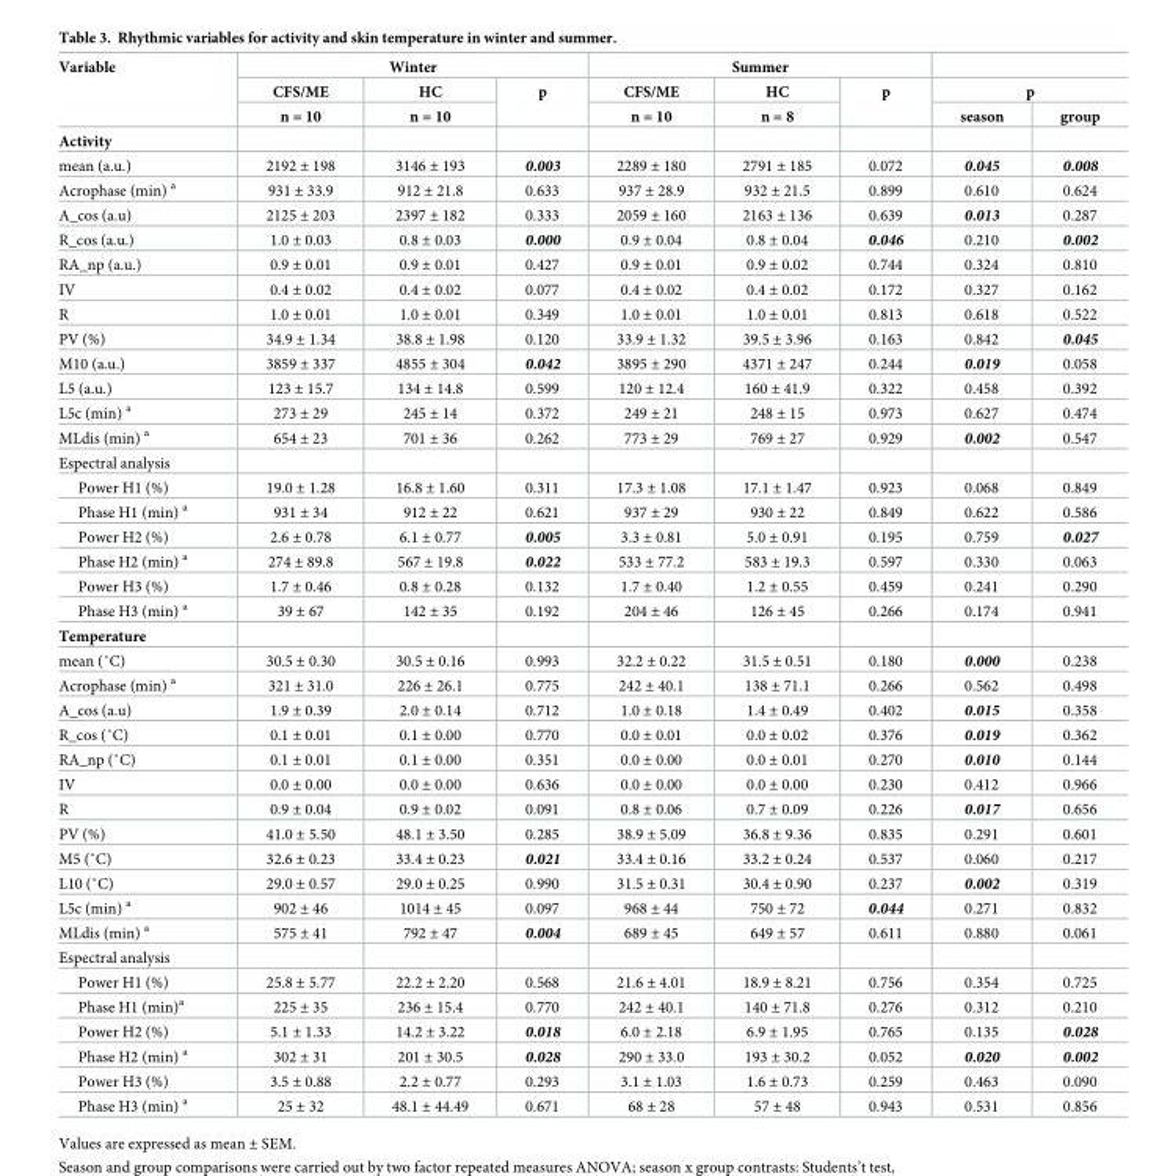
<table><thead><tr><td rowspan="3">Variable</td><td colspan="3">Winter</td><td colspan="3">Summer</td><td></td><td></td></tr><tr><td rowspan="2">CFS/ME n = 10</td><td rowspan="2">HC n = 10</td><td rowspan="2">p</td><td rowspan="2">CFS/ME n = 10</td><td rowspan="2">HC n = 8</td><td rowspan="2">p</td><td colspan="2">p</td></tr><tr><td>season</td><td>group</td></tr></thead><tbody><tr><td colspan="9">Activity</td></tr><tr><td>mean (a.u.)</td><td>2192 ± 198</td><td>3146 ± 193</td><td>0.003</td><td>2289 ± 180</td><td>2791 ± 185</td><td>0.072</td><td>0.045</td><td>0.008</td></tr><tr><td>Acrophase (min) <sup>a</sup></td><td>931 ± 33.9</td><td>912 ± 21.8</td><td>0.633</td><td>937 ± 28.9</td><td>932 ± 21.5</td><td>0.899</td><td>0.610</td><td>0.624</td></tr><tr><td>A_cos (a.u)</td><td>2125 ± 203</td><td>2397 ± 182</td><td>0.333</td><td>2059 ± 160</td><td>2163 ± 136</td><td>0.639</td><td>0.013</td><td>0.287</td></tr><tr><td>R_cos (a.u.)</td><td>1.0 ± 0.03</td><td>0.8 ± 0.03</td><td>0.000</td><td>0.9 ± 0.04</td><td>0.8 ± 0.04</td><td>0.046</td><td>0.210</td><td>0.002</td></tr><tr><td>RA_np (a.u.)</td><td>0.9 ± 0.01</td><td>0.9 ± 0.01</td><td>0.427</td><td>0.9 ± 0.01</td><td>0.9 ± 0.02</td><td>0.744</td><td>0.324</td><td>0.810</td></tr><tr><td>IV</td><td>0.4 ± 0.02</td><td>0.4 ± 0.02</td><td>0.077</td><td>0.4 ± 0.02</td><td>0.4 ± 0.02</td><td>0.172</td><td>0.327</td><td>0.162</td></tr><tr><td>R</td><td>1.0 ± 0.01</td><td>1.0 ± 0.01</td><td>0.349</td><td>1.0 ± 0.01</td><td>1.0 ± 0.01</td><td>0.813</td><td>0.618</td><td>0.522</td></tr><tr><td>PV (%)</td><td>34.9 ± 1.34</td><td>38.8 ± 1.98</td><td>0.120</td><td>33.9 ± 1.32</td><td>39.5 ± 3.96</td><td>0.163</td><td>0.842</td><td>0.045</td></tr><tr><td>M10 (a.u.)</td><td>3859 ± 337</td><td>4855 ± 304</td><td>0.042</td><td>3895 ± 290</td><td>4371 ± 247</td><td>0.244</td><td>0.019</td><td>0.058</td></tr><tr><td>L5 (a.u.)</td><td>123 ± 15.7</td><td>134 ± 14.8</td><td>0.599</td><td>120 ± 12.4</td><td>160 ± 41.9</td><td>0.322</td><td>0.458</td><td>0.392</td></tr><tr><td>L5c (min) <sup>a</sup></td><td>273 ± 29</td><td>245 ± 14</td><td>0.372</td><td>249 ± 21</td><td>248 ± 15</td><td>0.973</td><td>0.627</td><td>0.474</td></tr><tr><td>MLdis (min) <sup>a</sup></td><td>654 ± 23</td><td>701 ± 36</td><td>0.262</td><td>773 ± 29</td><td>769 ± 27</td><td>0.929</td><td>0.002</td><td>0.547</td></tr><tr><td colspan="9">Espectral analysis</td></tr><tr><td>Power H1 (%)</td><td>19.0 ± 1.28</td><td>16.8 ± 1.60</td><td>0.311</td><td>17.3 ± 1.08</td><td>17.1 ± 1.47</td><td>0.923</td><td>0.068</td><td>0.849</td></tr><tr><td>Phase H1 (min) <sup>a</sup></td><td>931 ± 34</td><td>912 ± 22</td><td>0.621</td><td>937 ± 29</td><td>930 ± 22</td><td>0.849</td><td>0.622</td><td>0.586</td></tr><tr><td>Power H2 (%)</td><td>2.6 ± 0.78</td><td>6.1 ± 0.77</td><td>0.005</td><td>3.3 ± 0.81</td><td>5.0 ± 0.91</td><td>0.195</td><td>0.759</td><td>0.027</td></tr><tr><td>Phase H2 (min) <sup>a</sup></td><td>274 ± 89.8</td><td>567 ± 19.8</td><td>0.022</td><td>533 ± 77.2</td><td>583 ± 19.3</td><td>0.597</td><td>0.330</td><td>0.063</td></tr><tr><td>Power H3 (%)</td><td>1.7 ± 0.46</td><td>0.8 ± 0.28</td><td>0.132</td><td>1.7 ± 0.40</td><td>1.2 ± 0.55</td><td>0.459</td><td>0.241</td><td>0.290</td></tr><tr><td>Phase H3 (min) <sup>a</sup></td><td>39 ± 67</td><td>142 ± 35</td><td>0.192</td><td>204 ± 46</td><td>126 ± 45</td><td>0.266</td><td>0.174</td><td>0.941</td></tr><tr><td colspan="9">Temperature</td></tr><tr><td>mean (˚C)</td><td>30.5 ± 0.30</td><td>30.5 ± 0.16</td><td>0.993</td><td>32.2 ± 0.22</td><td>31.5 ± 0.51</td><td>0.180</td><td>0.000</td><td>0.238</td></tr><tr><td>Acrophase (min) <sup>a</sup></td><td>321 ± 31.0</td><td>226 ± 26.1</td><td>0.775</td><td>242 ± 40.1</td><td>138 ± 71.1</td><td>0.266</td><td>0.562</td><td>0.498</td></tr><tr><td>A_cos (a.u)</td><td>1.9 ± 0.39</td><td>2.0 ± 0.14</td><td>0.712</td><td>1.0 ± 0.18</td><td>1.4 ± 0.49</td><td>0.402</td><td>0.015</td><td>0.358</td></tr><tr><td>R_cos (˚C)</td><td>0.1 ± 0.01</td><td>0.1 ± 0.00</td><td>0.770</td><td>0.0 ± 0.01</td><td>0.0 ± 0.02</td><td>0.376</td><td>0.019</td><td>0.362</td></tr><tr><td>RA_np (˚C)</td><td>0.1 ± 0.01</td><td>0.1 ± 0.00</td><td>0.351</td><td>0.0 ± 0.00</td><td>0.0 ± 0.01</td><td>0.270</td><td>0.010</td><td>0.144</td></tr><tr><td>IV</td><td>0.0 ± 0.00</td><td>0.0 ± 0.00</td><td>0.636</td><td>0.0 ± 0.00</td><td>0.0 ± 0.00</td><td>0.230</td><td>0.412</td><td>0.966</td></tr><tr><td>R</td><td>0.9 ± 0.04</td><td>0.9 ± 0.02</td><td>0.091</td><td>0.8 ± 0.06</td><td>0.7 ± 0.09</td><td>0.226</td><td>0.017</td><td>0.656</td></tr><tr><td>PV (%)</td><td>41.0 ± 5.50</td><td>48.1 ± 3.50</td><td>0.285</td><td>38.9 ± 5.09</td><td>36.8 ± 9.36</td><td>0.835</td><td>0.291</td><td>0.601</td></tr><tr><td>M5 (˚C)</td><td>32.6 ± 0.23</td><td>33.4 ± 0.23</td><td>0.021</td><td>33.4 ± 0.16</td><td>33.2 ± 0.24</td><td>0.537</td><td>0.060</td><td>0.217</td></tr><tr><td>L10 (˚C)</td><td>29.0 ± 0.57</td><td>29.0 ± 0.25</td><td>0.990</td><td>31.5 ± 0.31</td><td>30.4 ± 0.90</td><td>0.237</td><td>0.002</td><td>0.319</td></tr><tr><td>L5c (min) <sup>a</sup></td><td>902 ± 46</td><td>1014 ± 45</td><td>0.097</td><td>968 ± 44</td><td>750 ± 72</td><td>0.044</td><td>0.271</td><td>0.832</td></tr><tr><td>MLdis (min) <sup>a</sup></td><td>575 ± 41</td><td>792 ± 47</td><td>0.004</td><td>689 ± 45</td><td>649 ± 57</td><td>0.611</td><td>0.880</td><td>0.061</td></tr><tr><td colspan="9">Espectral analysis</td></tr><tr><td>Power H1 (%)</td><td>25.8 ± 5.77</td><td>22.2 ± 2.20</td><td>0.568</td><td>21.6 ± 4.01</td><td>18.9 ± 8.21</td><td>0.756</td><td>0.354</td><td>0.725</td></tr><tr><td>Phase H1 (min)<sup>a</sup></td><td>225 ± 35</td><td>236 ± 15.4</td><td>0.770</td><td>242 ± 40.1</td><td>140 ± 71.8</td><td>0.276</td><td>0.312</td><td>0.210</td></tr><tr><td>Power H2 (%)</td><td>5.1 ± 1.33</td><td>14.2 ± 3.22</td><td>0.018</td><td>6.0 ± 2.18</td><td>6.9 ± 1.95</td><td>0.765</td><td>0.135</td><td>0.028</td></tr><tr><td>Phase H2 (min) <sup>a</sup></td><td>302 ± 31</td><td>201 ± 30.5</td><td>0.028</td><td>290 ± 33.0</td><td>193 ± 30.2</td><td>0.052</td><td>0.020</td><td>0.002</td></tr><tr><td>Power H3 (%)</td><td>3.5 ± 0.88</td><td>2.2 ± 0.77</td><td>0.293</td><td>3.1 ± 1.03</td><td>1.6 ± 0.73</td><td>0.259</td><td>0.463</td><td>0.090</td></tr><tr><td>Phase H3 (min) <sup>a</sup></td><td>25 ± 32</td><td>48.1 ± 44.49</td><td>0.671</td><td>68 ± 28</td><td>57 ± 48</td><td>0.943</td><td>0.531</td><td>0.856</td></tr></tbody></table>